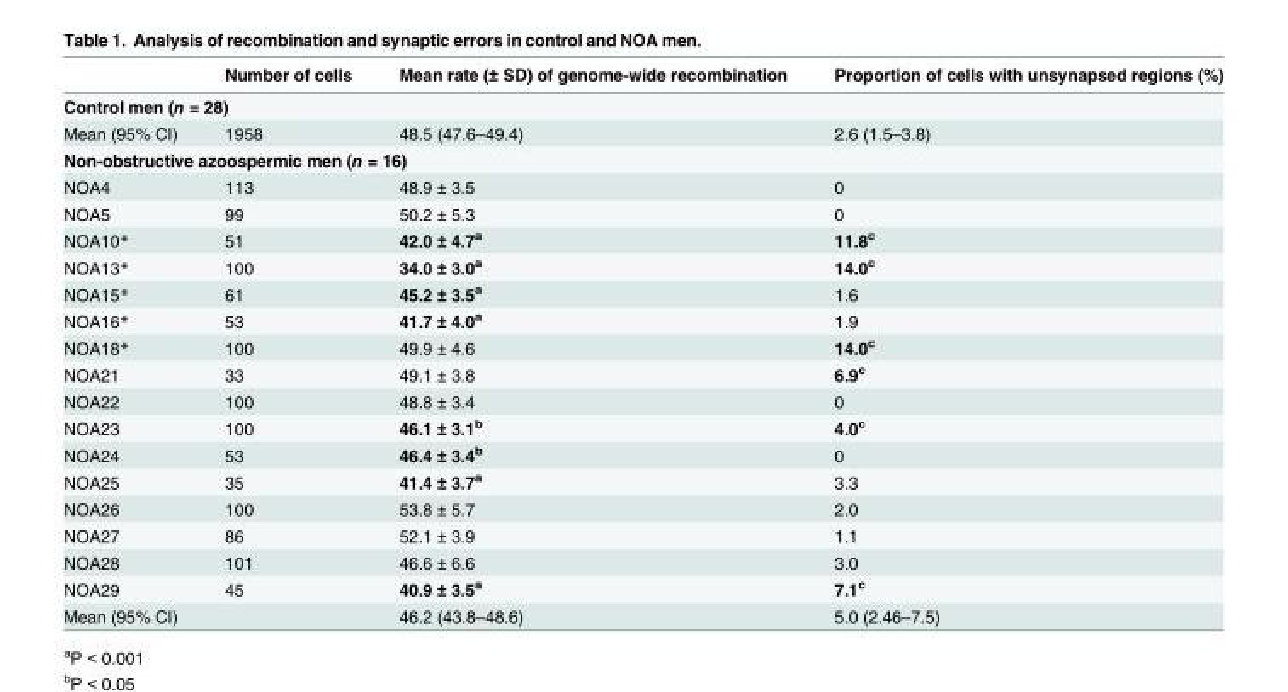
<table><thead><tr><td></td><td>Number of cells</td><td>Mean rate (± SD) of genome-wide recombination</td><td>Proportion of cells with unsynapsed regions (%)</td></tr></thead><tbody><tr><td colspan="4">Control men (n = 28)</td></tr><tr><td>Mean (95% CI)</td><td>1958</td><td>48.5 (47.6–49.4)</td><td>2.6 (1.5–3.8)</td></tr><tr><td colspan="4">Non-obstructive azoospermic men (n = 16)</td></tr><tr><td>NOA4</td><td>113</td><td>48.9 ± 3.5</td><td>0</td></tr><tr><td>NOA5</td><td>99</td><td>50.2 ± 5.3</td><td>0</td></tr><tr><td>NOA10*</td><td>51</td><td>42.0 ± 4.7<sup>a</sup></td><td>11.8<sup>c</sup></td></tr><tr><td>NOA13*</td><td>100</td><td>34.0 ± 3.0<sup>a</sup></td><td>14.0<sup>c</sup></td></tr><tr><td>NOA15*</td><td>61</td><td>45.2 ± 3.5<sup>a</sup></td><td>1.6</td></tr><tr><td>NOA16*</td><td>53</td><td>41.7 ± 4.0<sup>a</sup></td><td>1.9</td></tr><tr><td>NOA18*</td><td>100</td><td>49.9 ± 4.6</td><td>14.0<sup>c</sup></td></tr><tr><td>NOA21</td><td>33</td><td>49.1 ± 3.8</td><td>6.9<sup>c</sup></td></tr><tr><td>NOA22</td><td>100</td><td>48.8 ± 3.4</td><td>0</td></tr><tr><td>NOA23</td><td>100</td><td>46.1 ± 3.1<sup>b</sup></td><td>4.0<sup>c</sup></td></tr><tr><td>NOA24</td><td>53</td><td>46.4 ± 3.4<sup>b</sup></td><td>0</td></tr><tr><td>NOA25</td><td>35</td><td>41.4 ± 3.7<sup>a</sup></td><td>3.3</td></tr><tr><td>NOA26</td><td>100</td><td>53.8 ± 5.7</td><td>2.0</td></tr><tr><td>NOA27</td><td>86</td><td>52.1 ± 3.9</td><td>1.1</td></tr><tr><td>NOA28</td><td>101</td><td>46.6 ± 6.6</td><td>3.0</td></tr><tr><td>NOA29</td><td>45</td><td>40.9 ± 3.5<sup>a</sup></td><td>7.1<sup>c</sup></td></tr><tr><td>Mean (95% CI)</td><td></td><td>46.2 (43.8–48.6)</td><td>5.0 (2.46–7.5)</td></tr></tbody></table>